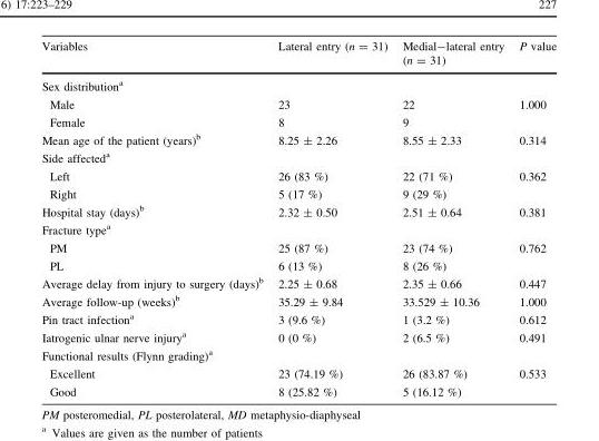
<table><thead><tr><td>Variables</td><td>Lateral entry (n = 31)</td><td>Medial-lateral entry (n = 31)</td><td>P value</td></tr></thead><tbody><tr><td colspan="4">Sex distribution<sup>a</sup></td></tr><tr><td>Male</td><td>23</td><td>22</td><td rowspan="2">1.000</td></tr><tr><td>Female</td><td>8</td><td>9</td></tr><tr><td>Mean age of the patient (years)<sup>b</sup></td><td>8.25 ± 2.26</td><td>8.55 ± 2.33</td><td>0.314</td></tr><tr><td colspan="4">Side affected<sup>a</sup></td></tr><tr><td>Left</td><td>26 (83 %)</td><td>22 (71 %)</td><td rowspan="2">0.362</td></tr><tr><td>Right</td><td>5 (17 %)</td><td>9 (29 %)</td></tr><tr><td>Hospital stay (days)<sup>b</sup></td><td>2.32 ± 0.50</td><td>2.51 ± 0.64</td><td>0.381</td></tr><tr><td colspan="4">Fracture type<sup>a</sup></td></tr><tr><td>PM</td><td>25 (87 %)</td><td>23 (74 %)</td><td rowspan="2">0.762</td></tr><tr><td>PL</td><td>6 (13 %)</td><td>8 (26 %)</td></tr><tr><td>Average delay from injury to surgery (days)<sup>b</sup></td><td>2.25 ± 0.68</td><td>2.35 ± 0.66</td><td>0.447</td></tr><tr><td>Average follow-up (weeks)<sup>b</sup></td><td>35.29 ± 9.84</td><td>33.529 ± 10.36</td><td>1.000</td></tr><tr><td>Pin tract infection<sup>a</sup></td><td>3 (9.6 %)</td><td>1 (3.2 %)</td><td>0.612</td></tr><tr><td>Iatrogenic ulnar nerve injury<sup>a</sup></td><td>0 (0 %)</td><td>2 (6.5 %)</td><td>0.491</td></tr><tr><td colspan="4">Functional results (Flynn grading)<sup>a</sup></td></tr><tr><td>Excellent</td><td>23 (74.19 %)</td><td>26 (83.87 %)</td><td rowspan="2">0.533</td></tr><tr><td>Good</td><td>8 (25.82 %)</td><td>5 (16.12 %)</td></tr></tbody></table>